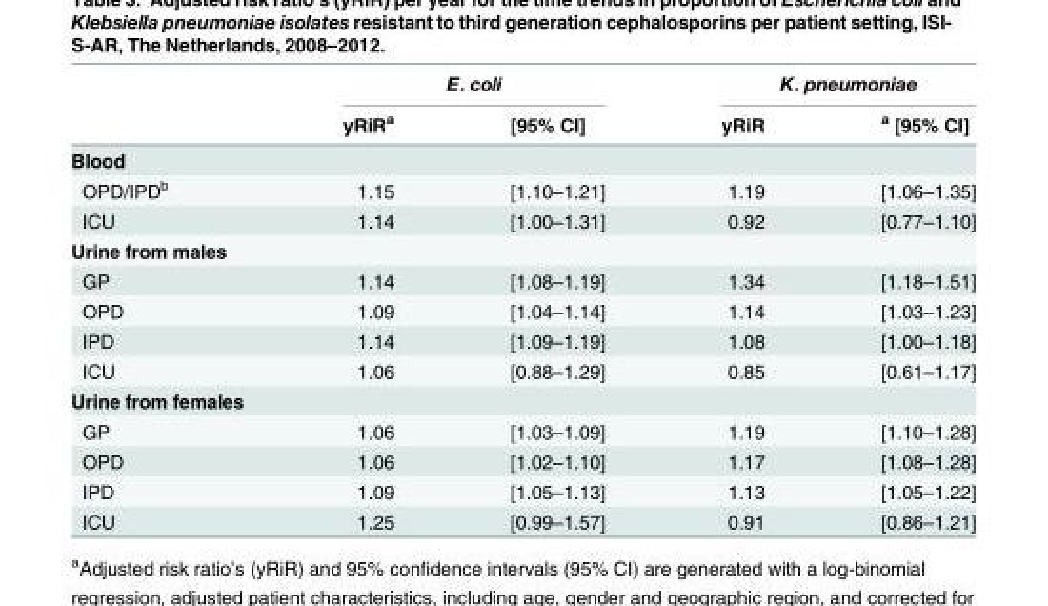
<table><thead><tr><td rowspan="2"></td><td colspan="2">E. coli</td><td colspan="2">K. pneumoniae</td></tr><tr><td>yRiR<sup>a</sup></td><td>[95% CI]</td><td>yRiR</td><td><sup>a</sup> [95% CI]</td></tr></thead><tbody><tr><td colspan="5">Blood</td></tr><tr><td>OPD/IPD<sup>b</sup></td><td>1.15</td><td>[1.10–1.21]</td><td>1.19</td><td>[1.06–1.35]</td></tr><tr><td>ICU</td><td>1.14</td><td>[1.00–1.31]</td><td>0.92</td><td>[0.77–1.10]</td></tr><tr><td colspan="5">Urine from males</td></tr><tr><td>GP</td><td>1.14</td><td>[1.08–1.19]</td><td>1.34</td><td>[1.18–1.51]</td></tr><tr><td>OPD</td><td>1.09</td><td>[1.04–1.14]</td><td>1.14</td><td>[1.03–1.23]</td></tr><tr><td>IPD</td><td>1.14</td><td>[1.09–1.19]</td><td>1.08</td><td>[1.00–1.18]</td></tr><tr><td>ICU</td><td>1.06</td><td>[0.88–1.29]</td><td>0.85</td><td>[0.61–1.17]</td></tr><tr><td colspan="5">Urine from females</td></tr><tr><td>GP</td><td>1.06</td><td>[1.03–1.09]</td><td>1.19</td><td>[1.10–1.28]</td></tr><tr><td>OPD</td><td>1.06</td><td>[1.02–1.10]</td><td>1.17</td><td>[1.08–1.28]</td></tr><tr><td>IPD</td><td>1.09</td><td>[1.05–1.13]</td><td>1.13</td><td>[1.05–1.22]</td></tr><tr><td>ICU</td><td>1.25</td><td>[0.99–1.57]</td><td>0.91</td><td>[0.86–1.21]</td></tr></tbody></table>